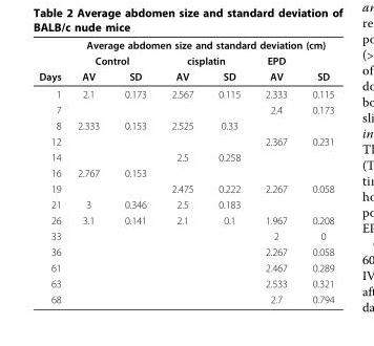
<table><thead><tr><td rowspan="3">Days</td><td colspan="6">Average abdomen size and standard deviation (cm)</td></tr><tr><td colspan="2">Control</td><td colspan="2">cisplatin</td><td rowspan="2">EPD AV</td><td rowspan="2">SD</td></tr><tr><td>AV</td><td>SD</td><td>AV</td><td>SD</td></tr></thead><tbody><tr><td>1</td><td>2.1</td><td>0.173</td><td>2.567</td><td>0.115</td><td>2.333</td><td>0.115</td></tr><tr><td>7</td><td></td><td></td><td></td><td></td><td>2.4</td><td>0.173</td></tr><tr><td>8</td><td>2.333</td><td>0.153</td><td>2.525</td><td>0.33</td><td></td><td></td></tr><tr><td>12</td><td></td><td></td><td></td><td></td><td>2.367</td><td>0.231</td></tr><tr><td>14</td><td></td><td></td><td>2.5</td><td>0.258</td><td></td><td></td></tr><tr><td>16</td><td>2.767</td><td>0.153</td><td></td><td></td><td></td><td></td></tr><tr><td>19</td><td></td><td></td><td>2.475</td><td>0.222</td><td>2.267</td><td>0.058</td></tr><tr><td>21</td><td>3</td><td>0.346</td><td>2.5</td><td>0.183</td><td></td><td></td></tr><tr><td>26</td><td>3.1</td><td>0.141</td><td>2.1</td><td>0.1</td><td>1.967</td><td>0.208</td></tr><tr><td>33</td><td></td><td></td><td></td><td></td><td>2</td><td>0</td></tr><tr><td>36</td><td></td><td></td><td></td><td></td><td>2.267</td><td>0.058</td></tr><tr><td>61</td><td></td><td></td><td></td><td></td><td>2.467</td><td>0.289</td></tr><tr><td>63</td><td></td><td></td><td></td><td></td><td>2.533</td><td>0.321</td></tr><tr><td>68</td><td></td><td></td><td></td><td></td><td>2.7</td><td>0.794</td></tr></tbody></table>